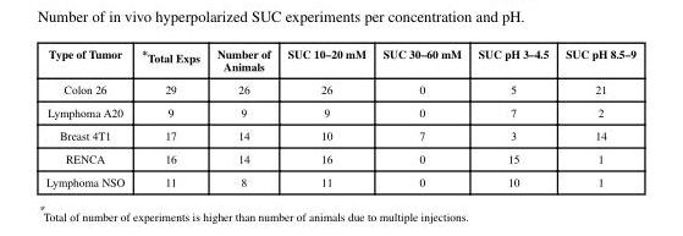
<table><thead><tr><td>Type of Tumor</td><td>*Total Exps</td><td>Number of Animals</td><td>SUC 10–20 mM</td><td>SUC 30–60 mM</td><td>SUC pH 3–4.5</td><td>SUC pH 8.5–9</td></tr></thead><tbody><tr><td>Colon 26</td><td>29</td><td>26</td><td>26</td><td>0</td><td>5</td><td>21</td></tr><tr><td>Lymphoma A20</td><td>9</td><td>9</td><td>9</td><td>0</td><td>7</td><td>2</td></tr><tr><td>Breast 4T1</td><td>17</td><td>14</td><td>10</td><td>7</td><td>3</td><td>14</td></tr><tr><td>RENCA</td><td>16</td><td>14</td><td>16</td><td>0</td><td>15</td><td>1</td></tr><tr><td>Lymphoma NSO</td><td>11</td><td>8</td><td>11</td><td>0</td><td>10</td><td>1</td></tr></tbody></table>